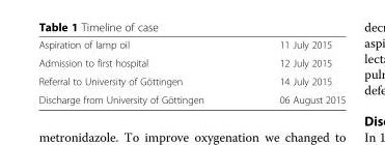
<table><tbody><tr><td>Aspiration of lamp oil</td><td>11 July 2015</td></tr><tr><td>Admission to first hospital</td><td>12 July 2015</td></tr><tr><td>Referral to University of Göttingen</td><td>14 July 2015</td></tr><tr><td>Discharge from University of Göttingen</td><td>06 August 2015</td></tr></tbody></table>